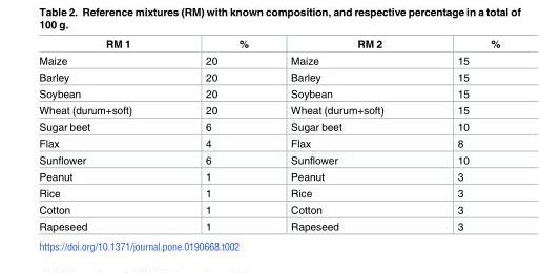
<table><thead><tr><td>RM 1</td><td>%</td><td>RM 2</td><td>%</td></tr></thead><tbody><tr><td>Maize</td><td>20</td><td>Maize</td><td>15</td></tr><tr><td>Barley</td><td>20</td><td>Barley</td><td>15</td></tr><tr><td>Soybean</td><td>20</td><td>Soybean</td><td>15</td></tr><tr><td>Wheat (durum+soft)</td><td>20</td><td>Wheat (durum+soft)</td><td>15</td></tr><tr><td>Sugar beet</td><td>6</td><td>Sugar beet</td><td>10</td></tr><tr><td>Flax</td><td>4</td><td>Flax</td><td>8</td></tr><tr><td>Sunflower</td><td>6</td><td>Sunflower</td><td>10</td></tr><tr><td>Peanut</td><td>1</td><td>Peanut</td><td>3</td></tr><tr><td>Rice</td><td>1</td><td>Rice</td><td>3</td></tr><tr><td>Cotton</td><td>1</td><td>Cotton</td><td>3</td></tr><tr><td>Rapeseed</td><td>1</td><td>Rapeseed</td><td>3</td></tr></tbody></table>